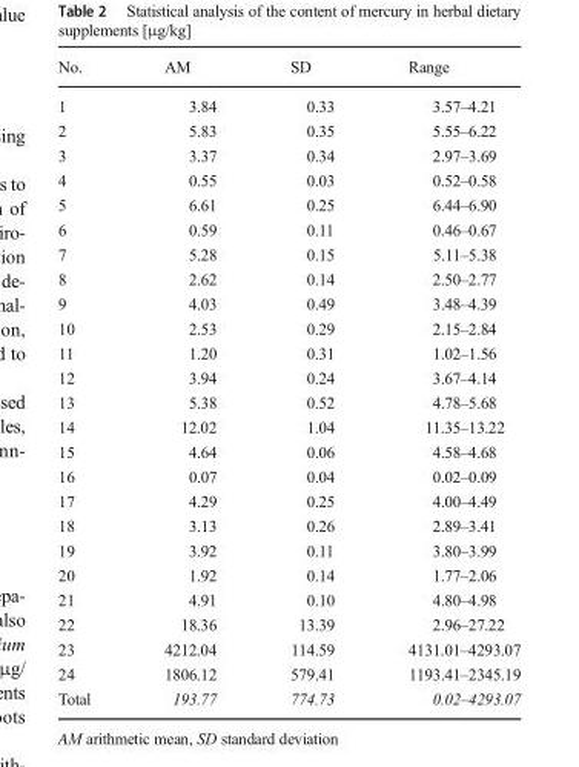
<table><thead><tr><td>No.</td><td>AM</td><td>SD</td><td>Range</td></tr></thead><tbody><tr><td>1</td><td>3.84</td><td>0.33</td><td>3.57–4.21</td></tr><tr><td>2</td><td>5.83</td><td>0.35</td><td>5.55–6.22</td></tr><tr><td>3</td><td>3.37</td><td>0.34</td><td>2.97–3.69</td></tr><tr><td>4</td><td>0.55</td><td>0.03</td><td>0.52–0.58</td></tr><tr><td>5</td><td>6.61</td><td>0.25</td><td>6.44–6.90</td></tr><tr><td>6</td><td>0.59</td><td>0.11</td><td>0.46–0.67</td></tr><tr><td>7</td><td>5.28</td><td>0.15</td><td>5.11–5.38</td></tr><tr><td>8</td><td>2.62</td><td>0.14</td><td>2.50–2.77</td></tr><tr><td>9</td><td>4.03</td><td>0.49</td><td>3.48–4.39</td></tr><tr><td>10</td><td>2.53</td><td>0.29</td><td>2.15–2.84</td></tr><tr><td>11</td><td>1.20</td><td>0.31</td><td>1.02–1.56</td></tr><tr><td>12</td><td>3.94</td><td>0.24</td><td>3.67–4.14</td></tr><tr><td>13</td><td>5.38</td><td>0.52</td><td>4.78–5.68</td></tr><tr><td>14</td><td>12.02</td><td>1.04</td><td>11.35–13.22</td></tr><tr><td>15</td><td>4.64</td><td>0.06</td><td>4.58–4.68</td></tr><tr><td>16</td><td>0.07</td><td>0.04</td><td>0.02–0.09</td></tr><tr><td>17</td><td>4.29</td><td>0.25</td><td>4.00–4.49</td></tr><tr><td>18</td><td>3.13</td><td>0.26</td><td>2.89–3.41</td></tr><tr><td>19</td><td>3.92</td><td>0.11</td><td>3.80–3.99</td></tr><tr><td>20</td><td>1.92</td><td>0.14</td><td>1.77–2.06</td></tr><tr><td>21</td><td>4.91</td><td>0.10</td><td>4.80–4.98</td></tr><tr><td>22</td><td>18.36</td><td>13.39</td><td>2.96–27.22</td></tr><tr><td>23</td><td>4212.04</td><td>114.59</td><td>4131.01–4293.07</td></tr><tr><td>24</td><td>1806.12</td><td>579.41</td><td>1193.41–2345.19</td></tr><tr><td>Total</td><td>193.77</td><td>774.73</td><td>0.02–4293.07</td></tr></tbody></table>